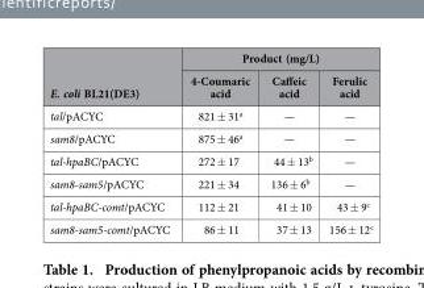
<table><thead><tr><td rowspan="2">E. coli BL21(DE3)</td><td colspan="3">Product (mg/L)</td></tr><tr><td>4-Coumaric acid</td><td>Caffeic acid</td><td>Ferulic acid</td></tr></thead><tbody><tr><td>tal/pACYC</td><td>821 ± 31<sup>a</sup></td><td>—</td><td>—</td></tr><tr><td>sam8/pACYC</td><td>875 ± 46<sup>a</sup></td><td>—</td><td>—</td></tr><tr><td>tal-hpaBC/pACYC</td><td>272 ± 17</td><td>44 ± 13<sup>b</sup></td><td>—</td></tr><tr><td>sam8-sam5/pACYC</td><td>221 ± 34</td><td>136 ± 6<sup>b</sup></td><td>—</td></tr><tr><td>tal-hpaBC-comt/pACYC</td><td>112 ± 21</td><td>41 ± 10</td><td>43 ± 9<sup>c</sup></td></tr><tr><td>sam8-sam5-comt/pACYC</td><td>86 ± 11</td><td>37 ± 13</td><td>156 ± 12<sup>c</sup></td></tr></tbody></table>